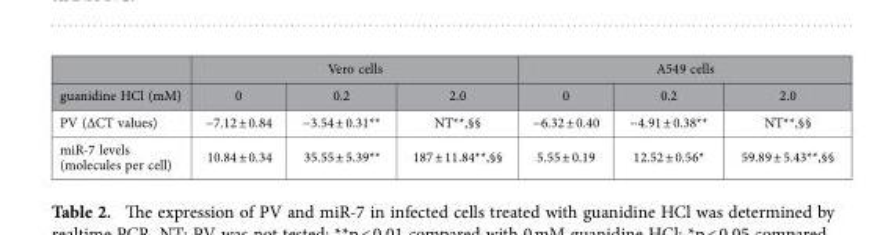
<table><thead><tr><td rowspan="2">guanidine HCl (mM)</td><td colspan="3">Vero cells</td><td colspan="3">A549 cells</td></tr><tr><td>0</td><td>0.2</td><td>2.0</td><td>0</td><td>0.2</td><td>2.0</td></tr></thead><tbody><tr><td>PV (∆CT values)</td><td>−7.12 ± 0.84</td><td>−3.54 ± 0.31**</td><td>NT**,§§</td><td>−6.32 ± 0.40</td><td>−4.91 ± 0.38**</td><td>NT**,§§</td></tr><tr><td>miR-7 levels (molecules per cell)</td><td>10.84 ± 0.34</td><td>35.55 ± 5.39**</td><td>187 ± 11.84**,§§</td><td>5.55 ± 0.19</td><td>12.52 ± 0.56*</td><td>59.89 ± 5.43**,§§</td></tr></tbody></table>